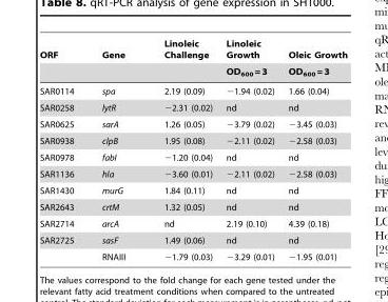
<table><thead><tr><td rowspan="2">ORF</td><td rowspan="2">Gene</td><td rowspan="2">Linoleic Challenge</td><td rowspan="2">Linoleic Growth OD<sub>600</sub> = 3</td><td rowspan="2">Oleic Growth OD<sub>600</sub> = 3</td></tr><tr></tr></thead><tbody><tr><td>SAR0114</td><td>spa</td><td>2.19 (0.09)</td><td>−1.94 (0.02)</td><td>1.66 (0.04)</td></tr><tr><td>SAR0258</td><td>lytR</td><td>−2.31 (0.02)</td><td>nd</td><td>nd</td></tr><tr><td>SAR0625</td><td>sarA</td><td>1.26 (0.05)</td><td>−3.79 (0.02)</td><td>−3.45 (0.03)</td></tr><tr><td>SAR0938</td><td>clpB</td><td>1.95 (0.08)</td><td>−2.11 (0.02)</td><td>−2.58 (0.03)</td></tr><tr><td>SAR0978</td><td>fabI</td><td>−1.20 (0.04)</td><td>nd</td><td>nd</td></tr><tr><td>SAR1136</td><td>hla</td><td>−3.60 (0.01)</td><td>−2.11 (0.02)</td><td>−2.58 (0.03)</td></tr><tr><td>SAR1430</td><td>murG</td><td>1.84 (0.11)</td><td>nd</td><td>nd</td></tr><tr><td>SAR2643</td><td>crtM</td><td>1.32 (0.05)</td><td>nd</td><td>nd</td></tr><tr><td>SAR2714</td><td>arcA</td><td>nd</td><td>2.19 (0.10)</td><td>4.39 (0.18)</td></tr><tr><td rowspan="2">SAR2725</td><td>sasF</td><td>1.49 (0.06)</td><td>nd</td><td>nd</td></tr><tr><td>RNAIII</td><td>−1.79 (0.03)</td><td>−3.29 (0.01)</td><td>−1.95 (0.01)</td></tr></tbody></table>